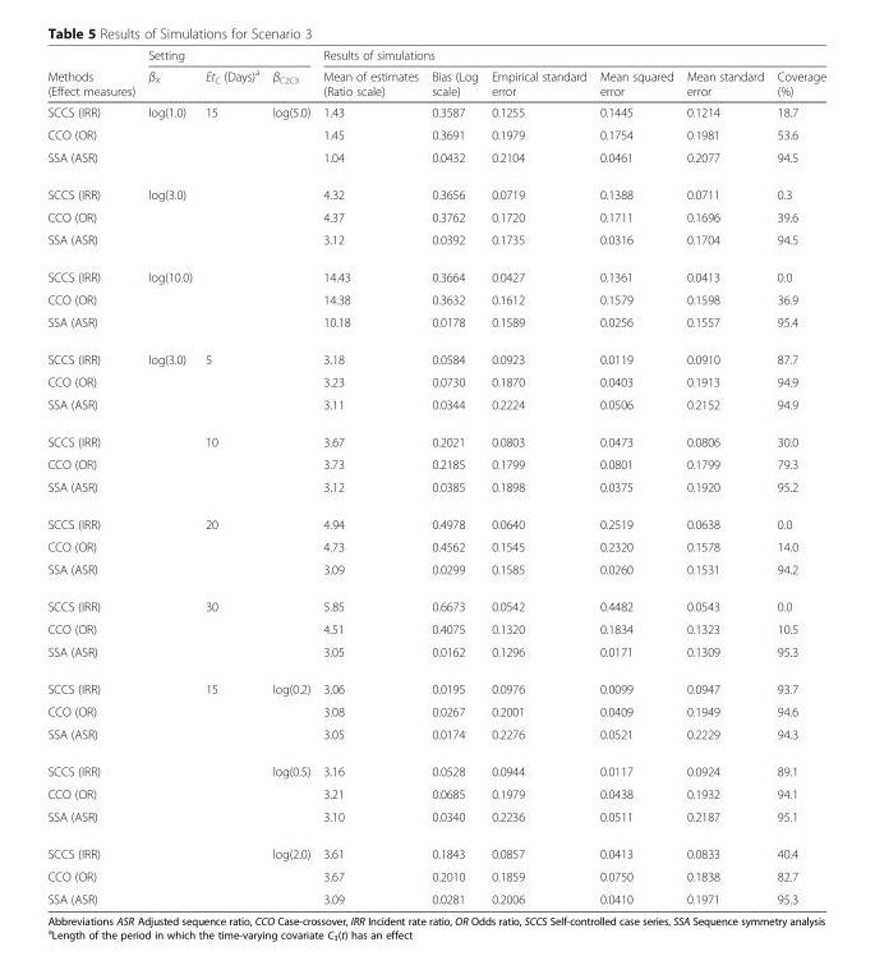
<table><thead><tr><td rowspan="2">Methods (Effect measures)</td><td colspan="3">Setting</td><td colspan="6">Results of simulations</td></tr><tr><td>β<sub>X</sub></td><td>Et<sub>C</sub> (Days)<sup>a</sup></td><td>β<sub>C2C3</sub></td><td>Mean of estimates (Ratio scale)</td><td>Bias (Log scale)</td><td>Empirical standard error</td><td>Mean squared error</td><td>Mean standard error</td><td>Coverage (%)</td></tr></thead><tbody><tr><td>SCCS (IRR)</td><td>log(1.0)</td><td>15</td><td>log(5.0)</td><td>1.43</td><td>0.3587</td><td>0.1255</td><td>0.1445</td><td>0.1214</td><td>18.7</td></tr><tr><td>CCO (OR)</td><td></td><td></td><td></td><td>1.45</td><td>0.3691</td><td>0.1979</td><td>0.1754</td><td>0.1981</td><td>53.6</td></tr><tr><td>SSA (ASR)</td><td></td><td></td><td></td><td>1.04</td><td>0.0432</td><td>0.2104</td><td>0.0461</td><td>0.2077</td><td>94.5</td></tr><tr><td>SCCS (IRR)</td><td>log(3.0)</td><td></td><td></td><td>4.32</td><td>0.3656</td><td>0.0719</td><td>0.1388</td><td>0.0711</td><td>0.3</td></tr><tr><td>CCO (OR)</td><td></td><td></td><td></td><td>4.37</td><td>0.3762</td><td>0.1720</td><td>0.1711</td><td>0.1696</td><td>39.6</td></tr><tr><td>SSA (ASR)</td><td></td><td></td><td></td><td>3.12</td><td>0.0392</td><td>0.1735</td><td>0.0316</td><td>0.1704</td><td>94.5</td></tr><tr><td>SCCS (IRR)</td><td>log(10.0)</td><td></td><td></td><td>14.43</td><td>0.3664</td><td>0.0427</td><td>0.1361</td><td>0.0413</td><td>0.0</td></tr><tr><td>CCO (OR)</td><td></td><td></td><td></td><td>14.38</td><td>0.3632</td><td>0.1612</td><td>0.1579</td><td>0.1598</td><td>36.9</td></tr><tr><td>SSA (ASR)</td><td></td><td></td><td></td><td>10.18</td><td>0.0178</td><td>0.1589</td><td>0.0256</td><td>0.1557</td><td>95.4</td></tr><tr><td>SCCS (IRR)</td><td>log(3.0)</td><td>5</td><td></td><td>3.18</td><td>0.0584</td><td>0.0923</td><td>0.0119</td><td>0.0910</td><td>87.7</td></tr><tr><td>CCO (OR)</td><td></td><td></td><td></td><td>3.23</td><td>0.0730</td><td>0.1870</td><td>0.0403</td><td>0.1913</td><td>94.9</td></tr><tr><td>SSA (ASR)</td><td></td><td></td><td></td><td>3.11</td><td>0.0344</td><td>0.2224</td><td>0.0506</td><td>0.2152</td><td>94.9</td></tr><tr><td>SCCS (IRR)</td><td></td><td>10</td><td></td><td>3.67</td><td>0.2021</td><td>0.0803</td><td>0.0473</td><td>0.0806</td><td>30.0</td></tr><tr><td>CCO (OR)</td><td></td><td></td><td></td><td>3.73</td><td>0.2185</td><td>0.1799</td><td>0.0801</td><td>0.1799</td><td>79.3</td></tr><tr><td>SSA (ASR)</td><td></td><td></td><td></td><td>3.12</td><td>0.0385</td><td>0.1898</td><td>0.0375</td><td>0.1920</td><td>95.2</td></tr><tr><td>SCCS (IRR)</td><td></td><td>20</td><td></td><td>4.94</td><td>0.4978</td><td>0.0640</td><td>0.2519</td><td>0.0638</td><td>0.0</td></tr><tr><td>CCO (OR)</td><td></td><td></td><td></td><td>4.73</td><td>0.4562</td><td>0.1545</td><td>0.2320</td><td>0.1578</td><td>14.0</td></tr><tr><td>SSA (ASR)</td><td></td><td></td><td></td><td>3.09</td><td>0.0299</td><td>0.1585</td><td>0.0260</td><td>0.1531</td><td>94.2</td></tr><tr><td>SCCS (IRR)</td><td></td><td>30</td><td></td><td>5.85</td><td>0.6673</td><td>0.0542</td><td>0.4482</td><td>0.0543</td><td>0.0</td></tr><tr><td>CCO (OR)</td><td></td><td></td><td></td><td>4.51</td><td>0.4075</td><td>0.1320</td><td>0.1834</td><td>0.1323</td><td>10.5</td></tr><tr><td>SSA (ASR)</td><td></td><td></td><td></td><td>3.05</td><td>0.0162</td><td>0.1296</td><td>0.0171</td><td>0.1309</td><td>95.3</td></tr><tr><td>SCCS (IRR)</td><td></td><td>15</td><td>log(0.2)</td><td>3.06</td><td>0.0195</td><td>0.0976</td><td>0.0099</td><td>0.0947</td><td>93.7</td></tr><tr><td>CCO (OR)</td><td></td><td></td><td></td><td>3.08</td><td>0.0267</td><td>0.2001</td><td>0.0409</td><td>0.1949</td><td>94.6</td></tr><tr><td>SSA (ASR)</td><td></td><td></td><td></td><td>3.05</td><td>0.0174</td><td>0.2276</td><td>0.0521</td><td>0.2229</td><td>94.3</td></tr><tr><td>SCCS (IRR)</td><td></td><td></td><td>log(0.5)</td><td>3.16</td><td>0.0528</td><td>0.0944</td><td>0.0117</td><td>0.0924</td><td>89.1</td></tr><tr><td>CCO (OR)</td><td></td><td></td><td></td><td>3.21</td><td>0.0685</td><td>0.1979</td><td>0.0438</td><td>0.1932</td><td>94.1</td></tr><tr><td>SSA (ASR)</td><td></td><td></td><td></td><td>3.10</td><td>0.0340</td><td>0.2236</td><td>0.0511</td><td>0.2187</td><td>95.1</td></tr><tr><td>SCCS (IRR)</td><td></td><td></td><td>log(2.0)</td><td>3.61</td><td>0.1843</td><td>0.0857</td><td>0.0413</td><td>0.0833</td><td>40.4</td></tr><tr><td>CCO (OR)</td><td></td><td></td><td></td><td>3.67</td><td>0.2010</td><td>0.1859</td><td>0.0750</td><td>0.1838</td><td>82.7</td></tr><tr><td>SSA (ASR)</td><td></td><td></td><td></td><td>3.09</td><td>0.0281</td><td>0.2006</td><td>0.0410</td><td>0.1971</td><td>95.3</td></tr></tbody></table>